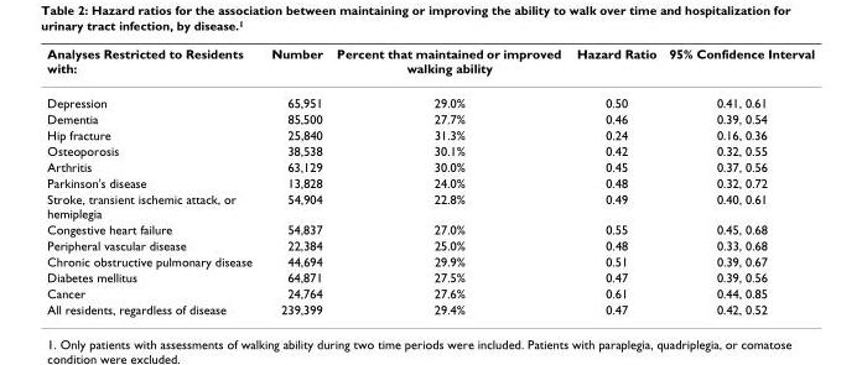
<table><thead><tr><td>Analyses Restricted to Residents with:</td><td>Number</td><td>Percent that maintained or improved walking ability</td><td>Hazard Ratio</td><td>95% Confidence Interval</td></tr></thead><tbody><tr><td>Depression</td><td>65,951</td><td>29.0%</td><td>0.50</td><td>0.41, 0.61</td></tr><tr><td>Dementia</td><td>85,500</td><td>27.7%</td><td>0.46</td><td>0.39, 0.54</td></tr><tr><td>Hip fracture</td><td>25,840</td><td>31.3%</td><td>0.24</td><td>0.16, 0.36</td></tr><tr><td>Osteoporosis</td><td>38,538</td><td>30.1%</td><td>0.42</td><td>0.32, 0.55</td></tr><tr><td>Arthritis</td><td>63,129</td><td>30.0%</td><td>0.45</td><td>0.37, 0.56</td></tr><tr><td>Parkinson&#x27;s disease</td><td>13,828</td><td>24.0%</td><td>0.48</td><td>0.32, 0.72</td></tr><tr><td>Stroke, transient ischemic attack, or hemiplegia</td><td>54,904</td><td>22.8%</td><td>0.49</td><td>0.40, 0.61</td></tr><tr><td>Congestive heart failure</td><td>54,837</td><td>27.0%</td><td>0.55</td><td>0.45, 0.68</td></tr><tr><td>Peripheral vascular disease</td><td>22,384</td><td>25.0%</td><td>0.48</td><td>0.33, 0.68</td></tr><tr><td>Chronic obstructive pulmonary disease</td><td>44,694</td><td>29.9%</td><td>0.51</td><td>0.39, 0.67</td></tr><tr><td>Diabetes mellitus</td><td>64,871</td><td>27.5%</td><td>0.47</td><td>0.39, 0.56</td></tr><tr><td>Cancer</td><td>24,764</td><td>27.6%</td><td>0.61</td><td>0.44, 0.85</td></tr><tr><td>All residents, regardless of disease</td><td>239,399</td><td>29.4%</td><td>0.47</td><td>0.42, 0.52</td></tr></tbody></table>